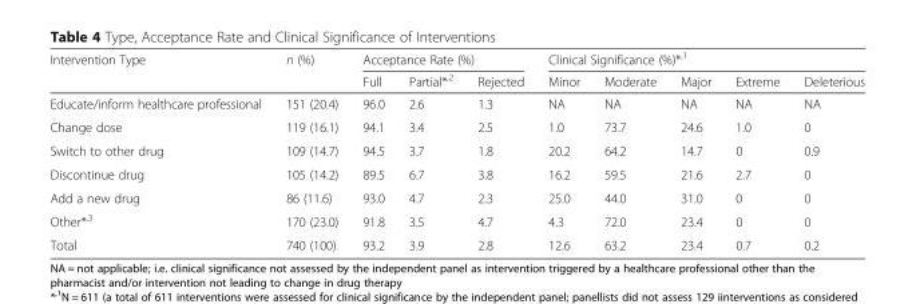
<table><thead><tr><td rowspan="2">Intervention Type</td><td rowspan="2">n (%)</td><td colspan="3">Acceptance Rate (%)</td><td colspan="5">Clinical Significance (%)*<sup>,1</sup></td></tr><tr><td>Full</td><td>Partial*<sup>,2</sup></td><td>Rejected</td><td>Minor</td><td>Moderate</td><td>Major</td><td>Extreme</td><td>Deleterious</td></tr></thead><tbody><tr><td>Educate/inform healthcare professional</td><td>151 (20.4)</td><td>96.0</td><td>2.6</td><td>1.3</td><td>NA</td><td>NA</td><td>NA</td><td>NA</td><td>NA</td></tr><tr><td>Change dose</td><td>119 (16.1)</td><td>94.1</td><td>3.4</td><td>2.5</td><td>1.0</td><td>73.7</td><td>24.6</td><td>1.0</td><td>0</td></tr><tr><td>Switch to other drug</td><td>109 (14.7)</td><td>94.5</td><td>3.7</td><td>1.8</td><td>20.2</td><td>64.2</td><td>14.7</td><td>0</td><td>0.9</td></tr><tr><td>Discontinue drug</td><td>105 (14.2)</td><td>89.5</td><td>6.7</td><td>3.8</td><td>16.2</td><td>59.5</td><td>21.6</td><td>2.7</td><td>0</td></tr><tr><td>Add a new drug</td><td>86 (11.6)</td><td>93.0</td><td>4.7</td><td>2.3</td><td>25.0</td><td>44.0</td><td>31.0</td><td>0</td><td>0</td></tr><tr><td>Other*<sup>,3</sup></td><td>170 (23.0)</td><td>91.8</td><td>3.5</td><td>4.7</td><td>4.3</td><td>72.0</td><td>23.4</td><td>0</td><td>0</td></tr><tr><td>Total</td><td>740 (100)</td><td>93.2</td><td>3.9</td><td>2.8</td><td>12.6</td><td>63.2</td><td>23.4</td><td>0.7</td><td>0.2</td></tr></tbody></table>